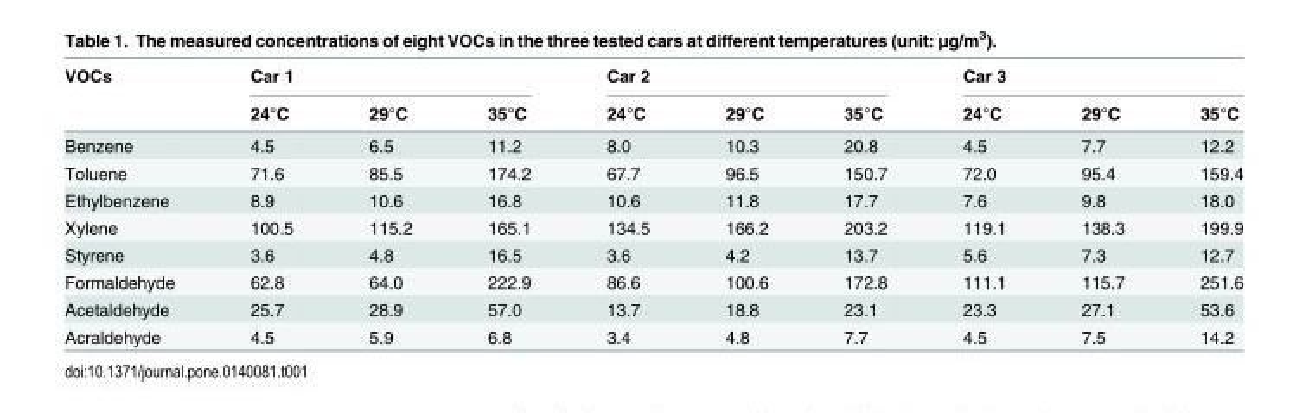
<table><thead><tr><td rowspan="2">VOCs</td><td colspan="3">Car 1</td><td colspan="3">Car 2</td><td colspan="3">Car 3</td></tr><tr><td>24°C</td><td>29°C</td><td>35°C</td><td>24°C</td><td>29°C</td><td>35°C</td><td>24°C</td><td>29°C</td><td>35°C</td></tr></thead><tbody><tr><td>Benzene</td><td>4.5</td><td>6.5</td><td>11.2</td><td>8.0</td><td>10.3</td><td>20.8</td><td>4.5</td><td>7.7</td><td>12.2</td></tr><tr><td>Toluene</td><td>71.6</td><td>85.5</td><td>174.2</td><td>67.7</td><td>96.5</td><td>150.7</td><td>72.0</td><td>95.4</td><td>159.4</td></tr><tr><td>Ethylbenzene</td><td>8.9</td><td>10.6</td><td>16.8</td><td>10.6</td><td>11.8</td><td>17.7</td><td>7.6</td><td>9.8</td><td>18.0</td></tr><tr><td>Xylene</td><td>100.5</td><td>115.2</td><td>165.1</td><td>134.5</td><td>166.2</td><td>203.2</td><td>119.1</td><td>138.3</td><td>199.9</td></tr><tr><td>Styrene</td><td>3.6</td><td>4.8</td><td>16.5</td><td>3.6</td><td>4.2</td><td>13.7</td><td>5.6</td><td>7.3</td><td>12.7</td></tr><tr><td>Formaldehyde</td><td>62.8</td><td>64.0</td><td>222.9</td><td>86.6</td><td>100.6</td><td>172.8</td><td>111.1</td><td>115.7</td><td>251.6</td></tr><tr><td>Acetaldehyde</td><td>25.7</td><td>28.9</td><td>57.0</td><td>13.7</td><td>18.8</td><td>23.1</td><td>23.3</td><td>27.1</td><td>53.6</td></tr><tr><td>Acraldehyde</td><td>4.5</td><td>5.9</td><td>6.8</td><td>3.4</td><td>4.8</td><td>7.7</td><td>4.5</td><td>7.5</td><td>14.2</td></tr></tbody></table>